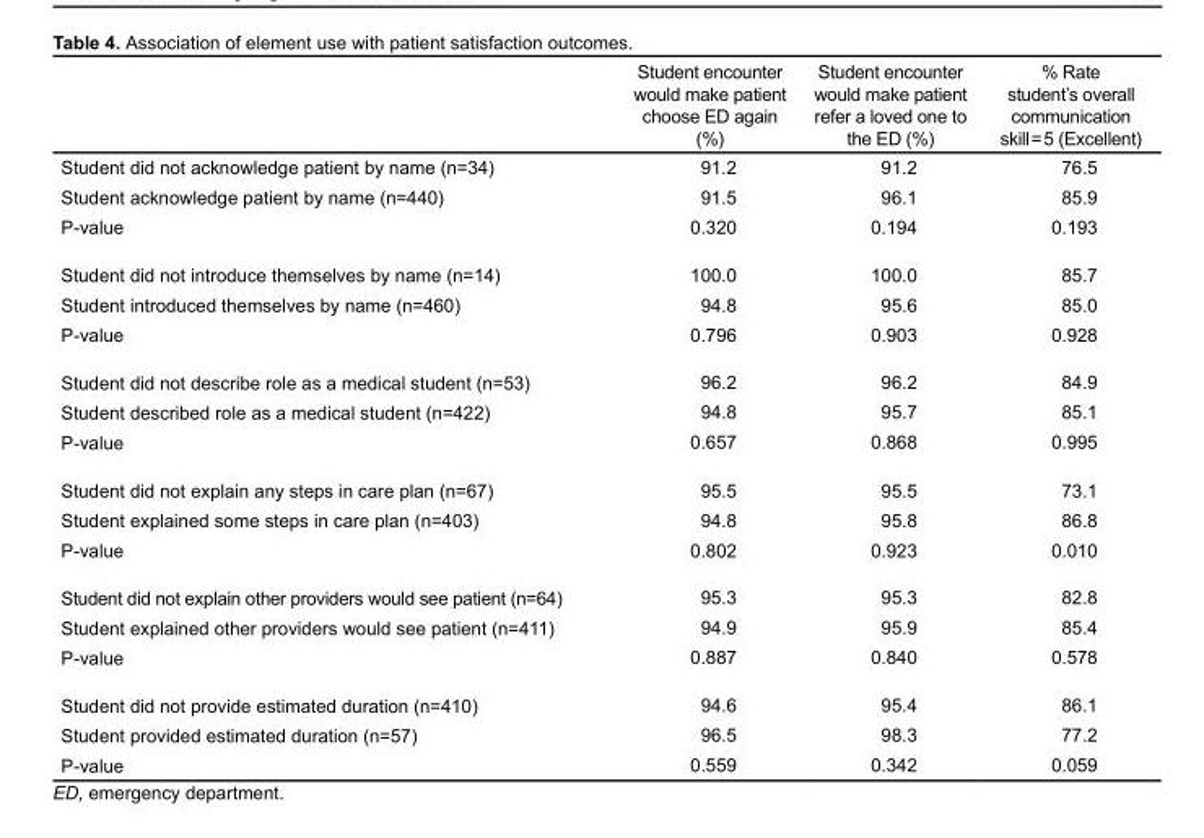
<table><thead><tr><td></td><td>Student encounter would make patient choose ED again (%)</td><td>Student encounter would make patient refer a loved one to the ED (%)</td><td>% Rate student’s overall communication skill = 5 (Excellent)</td></tr></thead><tbody><tr><td>Student did not acknowledge patient by name (n=34)</td><td>91.2</td><td>91.2</td><td>76.5</td></tr><tr><td>Student acknowledge patient by name (n=440)</td><td>91.5</td><td>96.1</td><td>85.9</td></tr><tr><td>P-value</td><td>0.320</td><td>0.194</td><td>0.193</td></tr><tr><td>Student did not introduce themselves by name (n=14)</td><td>100.0</td><td>100.0</td><td>85.7</td></tr><tr><td>Student introduced themselves by name (n=460)</td><td>94.8</td><td>95.6</td><td>85.0</td></tr><tr><td>P-value</td><td>0.796</td><td>0.903</td><td>0.928</td></tr><tr><td>Student did not describe role as a medical student (n=53)</td><td>96.2</td><td>96.2</td><td>84.9</td></tr><tr><td>Student described role as a medical student (n=422)</td><td>94.8</td><td>95.7</td><td>85.1</td></tr><tr><td>P-value</td><td>0.657</td><td>0.868</td><td>0.995</td></tr><tr><td>Student did not explain any steps in care plan (n=67)</td><td>95.5</td><td>95.5</td><td>73.1</td></tr><tr><td>Student explained some steps in care plan (n=403)</td><td>94.8</td><td>95.8</td><td>86.8</td></tr><tr><td>P-value</td><td>0.802</td><td>0.923</td><td>0.010</td></tr><tr><td>Student did not explain other providers would see patient (n=64)</td><td>95.3</td><td>95.3</td><td>82.8</td></tr><tr><td>Student explained other providers would see patient (n=411)</td><td>94.9</td><td>95.9</td><td>85.4</td></tr><tr><td>P-value</td><td>0.887</td><td>0.840</td><td>0.578</td></tr><tr><td>Student did not provide estimated duration (n=410)</td><td>94.6</td><td>95.4</td><td>86.1</td></tr><tr><td>Student provided estimated duration (n=57)</td><td>96.5</td><td>98.3</td><td>77.2</td></tr><tr><td>P-value</td><td>0.559</td><td>0.342</td><td>0.059</td></tr></tbody></table>